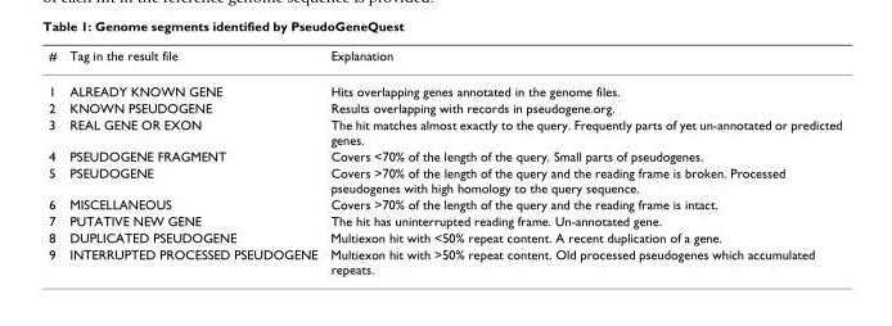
<table><thead><tr><td>#</td><td>Tag in the result file</td><td>Explanation</td></tr></thead><tbody><tr><td>1</td><td>ALREADY KNOWN GENE</td><td>Hits overlapping genes annotated in the genome files.</td></tr><tr><td>2</td><td>KNOWN PSEUDOGENE</td><td>Results overlapping with records in pseudogene.org.</td></tr><tr><td>3</td><td>REAL GENE OR EXON</td><td>The hit matches almost exactly to the query. Frequently parts of yet un-annotated or predicted genes.</td></tr><tr><td>4</td><td>PSEUDOGENE FRAGMENT</td><td>Covers &lt;70% of the length of the query. Small parts of pseudogenes.</td></tr><tr><td>5</td><td>PSEUDOGENE</td><td>Covers &gt;70% of the length of the query and the reading frame is broken. Processed pseudogenes with high homology to the query sequence.</td></tr><tr><td>6</td><td>MISCELLANEOUS</td><td>Covers &gt;70% of the length of the query and the reading frame is intact.</td></tr><tr><td>7</td><td>PUTATIVE NEW GENE</td><td>The hit has uninterrupted reading frame. Un-annotated gene.</td></tr><tr><td>8</td><td>DUPLICATED PSEUDOGENE</td><td>Multiexon hit with &lt;50% repeat content. A recent duplication of a gene.</td></tr><tr><td>9</td><td>INTERRUPTED PROCESSED PSEUDOGENE</td><td>Multiexon hit with &gt;50% repeat content. Old processed pseudogenes which accumulated repeats.</td></tr></tbody></table>